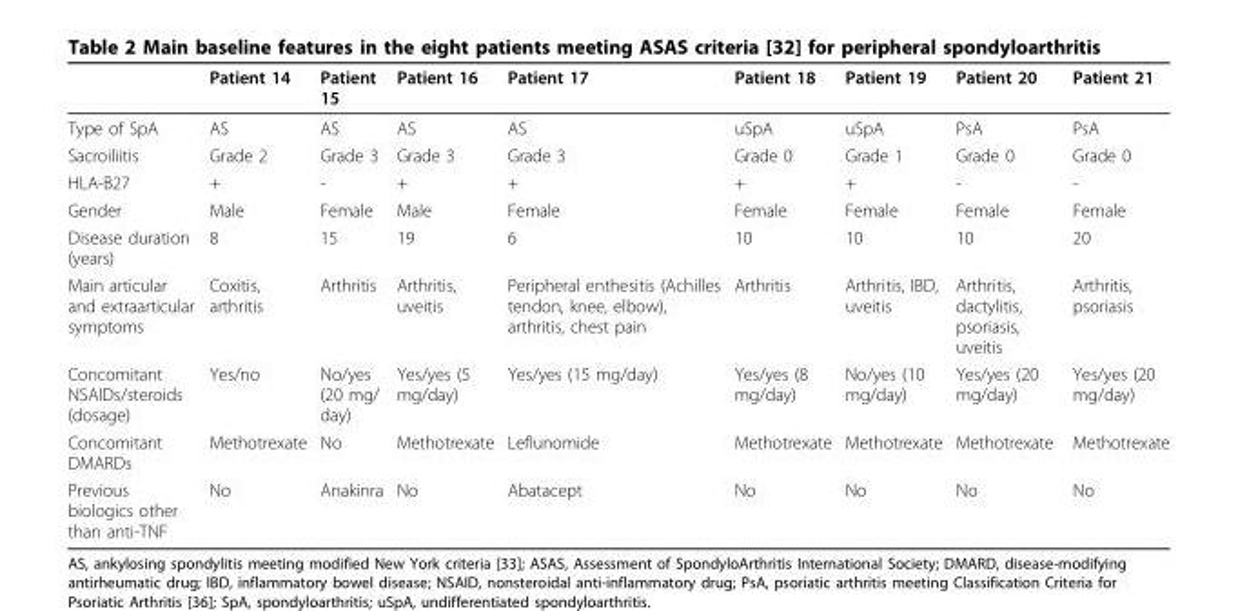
<table><thead><tr><td></td><td>Patient 14</td><td>Patient 15</td><td>Patient 16</td><td>Patient 17</td><td>Patient 18</td><td>Patient 19</td><td>Patient 20</td><td>Patient 21</td></tr></thead><tbody><tr><td>Type of SpA</td><td>AS</td><td>AS</td><td>AS</td><td>AS</td><td>uSpA</td><td>uSpA</td><td>PsA</td><td>PsA</td></tr><tr><td>Sacroiliitis</td><td>Grade 2</td><td>Grade 3</td><td>Grade 3</td><td>Grade 3</td><td>Grade 0</td><td>Grade 1</td><td>Grade 0</td><td>Grade 0</td></tr><tr><td>HLA-B27</td><td>+</td><td>-</td><td>+</td><td>+</td><td>+</td><td>+</td><td>-</td><td>-</td></tr><tr><td>Gender</td><td>Male</td><td>Female</td><td>Male</td><td>Female</td><td>Female</td><td>Female</td><td>Female</td><td>Female</td></tr><tr><td>Disease duration (years)</td><td>8</td><td>15</td><td>19</td><td>6</td><td>10</td><td>10</td><td>10</td><td>20</td></tr><tr><td>Main articular and extraarticular symptoms</td><td>Coxitis, arthritis</td><td>Arthritis</td><td>Arthritis, uveitis</td><td>Peripheral enthesitis (Achilles tendon, knee, elbow), arthritis, chest pain</td><td>Arthritis</td><td>Arthritis, IBD, uveitis</td><td>Arthritis, dactylitis, psoriasis, uveitis</td><td>Arthritis, psoriasis</td></tr><tr><td>Concomitant NSAIDs/steroids (dosage)</td><td>Yes/no</td><td>No/yes (20 mg/ day)</td><td>Yes/yes (5 mg/day)</td><td>Yes/yes (15 mg/day)</td><td>Yes/yes (8 mg/day)</td><td>No/yes (10 mg/day)</td><td>Yes/yes (20 mg/day)</td><td>Yes/yes (20 mg/day)</td></tr><tr><td>Concomitant DMARDs</td><td>Methotrexate</td><td>No</td><td>Methotrexate</td><td>Leflunomide</td><td>Methotrexate</td><td>Methotrexate</td><td>Methotrexate</td><td>Methotrexate</td></tr><tr><td>Previous biologics other than anti-TNF</td><td>No</td><td>Anakinra</td><td>No</td><td>Abatacept</td><td>No</td><td>No</td><td>No</td><td>No</td></tr></tbody></table>